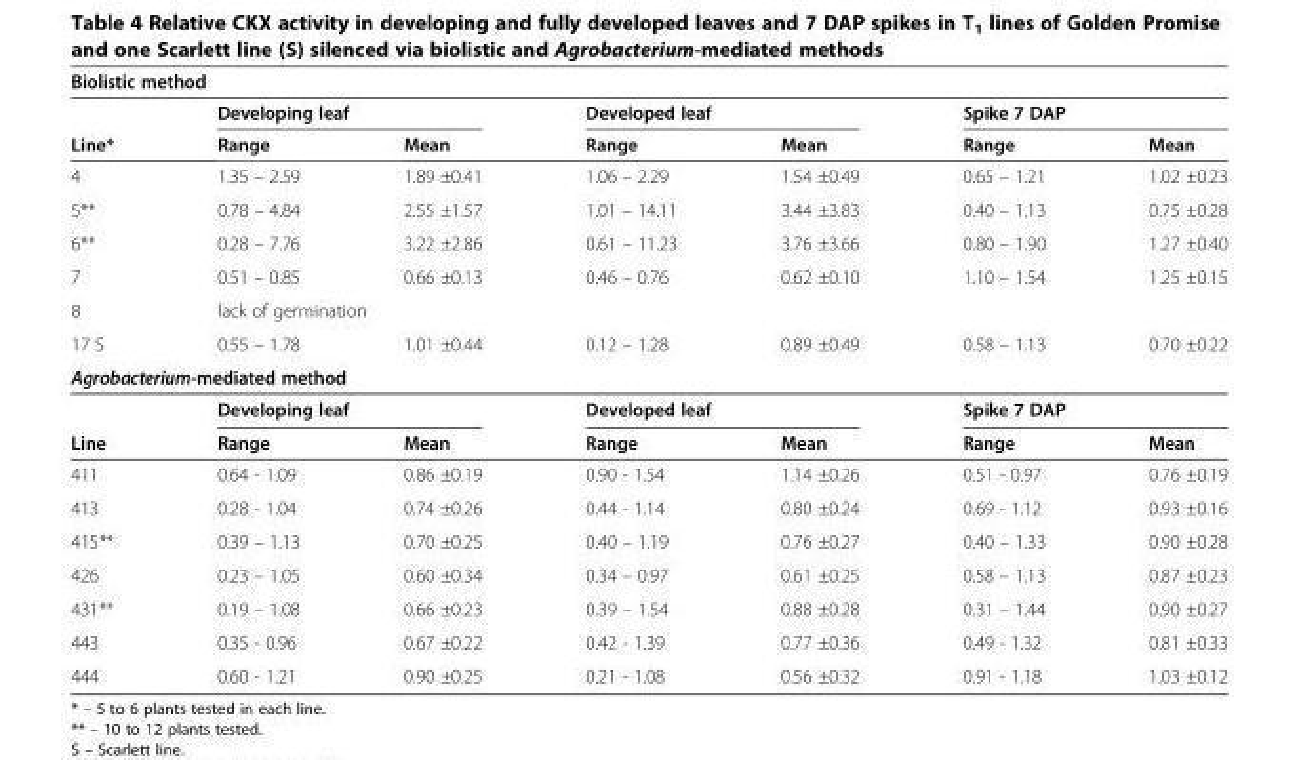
<table><thead><tr><td colspan="7">Biolistic method</td></tr><tr><td rowspan="2">Line*</td><td colspan="2">Developing leaf</td><td colspan="2">Developed leaf</td><td colspan="2">Spike 7 DAP</td></tr><tr><td>Range</td><td>Mean</td><td>Range</td><td>Mean</td><td>Range</td><td>Mean</td></tr></thead><tbody><tr><td>4</td><td>1.35 – 2.59</td><td>1.89 ±0.41</td><td>1.06 – 2.29</td><td>1.54 ±0.49</td><td>0.65 – 1.21</td><td>1.02 ±0.23</td></tr><tr><td>5**</td><td>0.78 – 4.84</td><td>2.55 ±1.57</td><td>1.01 – 14.11</td><td>3.44 ±3.83</td><td>0.40 – 1.13</td><td>0.75 ±0.28</td></tr><tr><td>6**</td><td>0.28 – 7.76</td><td>3.22 ±2.86</td><td>0.61 – 11.23</td><td>3.76 ±3.66</td><td>0.80 – 1.90</td><td>1.27 ±0.40</td></tr><tr><td>7</td><td>0.51 – 0.85</td><td>0.66 ±0.13</td><td>0.46 – 0.76</td><td>0.62 ±0.10</td><td>1.10 – 1.54</td><td>1.25 ±0.15</td></tr><tr><td>8</td><td colspan="6">lack of germination</td></tr><tr><td>17 S</td><td>0.55 – 1.78</td><td>1.01 ±0.44</td><td>0.12 – 1.28</td><td>0.89 ±0.49</td><td>0.58 – 1.13</td><td>0.70 ±0.22</td></tr><tr><td colspan="7">Agrobacterium-mediated method</td></tr><tr><td></td><td colspan="2">Developing leaf</td><td colspan="2">Developed leaf</td><td colspan="2">Spike 7 DAP</td></tr><tr><td>Line</td><td>Range</td><td>Mean</td><td>Range</td><td>Mean</td><td>Range</td><td>Mean</td></tr><tr><td>411</td><td>0.64 - 1.09</td><td>0.86 ±0.19</td><td>0.90 - 1.54</td><td>1.14 ±0.26</td><td>0.51 - 0.97</td><td>0.76 ±0.19</td></tr><tr><td>413</td><td>0.28 - 1.04</td><td>0.74 ±0.26</td><td>0.44 - 1.14</td><td>0.80 ±0.24</td><td>0.69 - 1.12</td><td>0.93 ±0.16</td></tr><tr><td>415**</td><td>0.39 – 1.13</td><td>0.70 ±0.25</td><td>0.40 – 1.19</td><td>0.76 ±0.27</td><td>0.40 – 1.33</td><td>0.90 ±0.28</td></tr><tr><td>426</td><td>0.23 – 1.05</td><td>0.60 ±0.34</td><td>0.34 – 0.97</td><td>0.61 ±0.25</td><td>0.58 – 1.13</td><td>0.87 ±0.23</td></tr><tr><td>431**</td><td>0.19 – 1.08</td><td>0.66 ±0.23</td><td>0.39 – 1.54</td><td>0.88 ±0.28</td><td>0.31 – 1.44</td><td>0.90 ±0.27</td></tr><tr><td>443</td><td>0.35 - 0.96</td><td>0.67 ±0.22</td><td>0.42 - 1.39</td><td>0.77 ±0.36</td><td>0.49 - 1.32</td><td>0.81 ±0.33</td></tr><tr><td>444</td><td>0.60 - 1.21</td><td>0.90 ±0.25</td><td>0.21 - 1.08</td><td>0.56 ±0.32</td><td>0.91 - 1.18</td><td>1.03 ±0.12</td></tr></tbody></table>